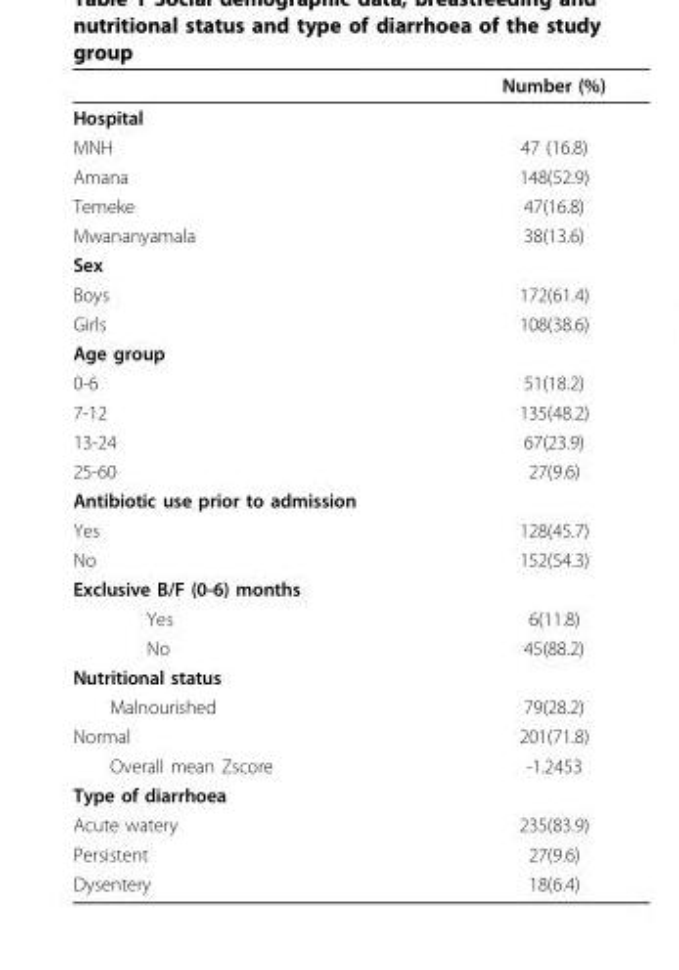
<table><thead><tr><td></td><td>Number (%)</td></tr></thead><tbody><tr><td colspan="2">Hospital</td></tr><tr><td>MNH</td><td>47 (16.8)</td></tr><tr><td>Amana</td><td>148(52.9)</td></tr><tr><td>Temeke</td><td>47(16.8)</td></tr><tr><td>Mwananyamala</td><td>38(13.6)</td></tr><tr><td colspan="2">Sex</td></tr><tr><td>Boys</td><td>172(61.4)</td></tr><tr><td>Girls</td><td>108(38.6)</td></tr><tr><td colspan="2">Age group</td></tr><tr><td>0-6</td><td>51(18.2)</td></tr><tr><td>7-12</td><td>135(48.2)</td></tr><tr><td>13-24</td><td>67(23.9)</td></tr><tr><td>25-60</td><td>27(9.6)</td></tr><tr><td colspan="2">Antibiotic use prior to admission</td></tr><tr><td>Yes</td><td>128(45.7)</td></tr><tr><td>No</td><td>152(54.3)</td></tr><tr><td colspan="2">Exclusive B/F (0-6) months</td></tr><tr><td>Yes</td><td>6(11.8)</td></tr><tr><td>No</td><td>45(88.2)</td></tr><tr><td colspan="2">Nutritional status</td></tr><tr><td>Malnourished</td><td>79(28.2)</td></tr><tr><td>Normal</td><td>201(71.8)</td></tr><tr><td>Overall mean Zscore</td><td>-1.2453</td></tr><tr><td colspan="2">Type of diarrhoea</td></tr><tr><td>Acute watery</td><td>235(83.9)</td></tr><tr><td>Persistent</td><td>27(9.6)</td></tr><tr><td>Dysentery</td><td>18(6.4)</td></tr></tbody></table>